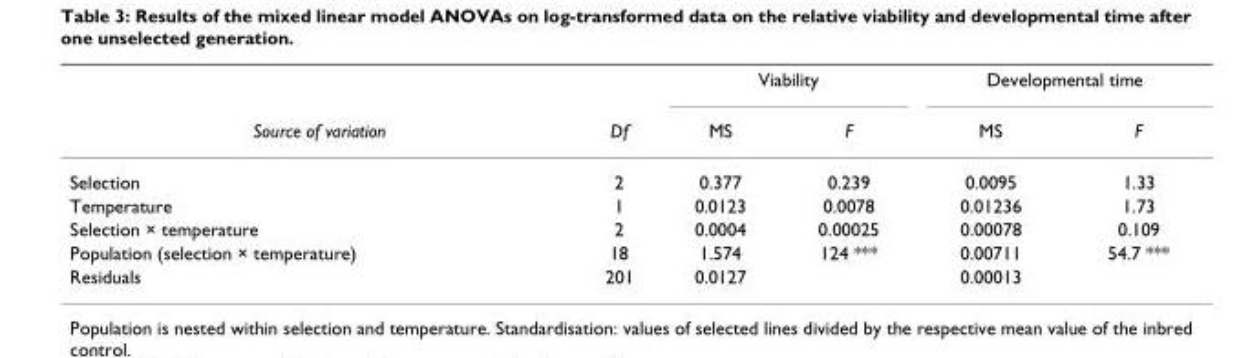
<table><thead><tr><td rowspan="2">Source of variation</td><td rowspan="2">Df</td><td colspan="2">Viability</td><td colspan="2">Developmental time</td></tr><tr><td>MS</td><td>F</td><td>MS</td><td>F</td></tr></thead><tbody><tr><td>Selection</td><td>2</td><td>0.377</td><td>0.239</td><td>0.0095</td><td>1.33</td></tr><tr><td>Temperature</td><td>1</td><td>0.0123</td><td>0.0078</td><td>0.01236</td><td>1.73</td></tr><tr><td>Selection × temperature</td><td>2</td><td>0.0004</td><td>0.00025</td><td>0.00078</td><td>0.109</td></tr><tr><td>Population (selection × temperature)</td><td>18</td><td>1.574</td><td>124 ***</td><td>0.00711</td><td>54.7 ***</td></tr><tr><td>Residuals</td><td>201</td><td>0.0127</td><td></td><td>0.00013</td><td></td></tr></tbody></table>